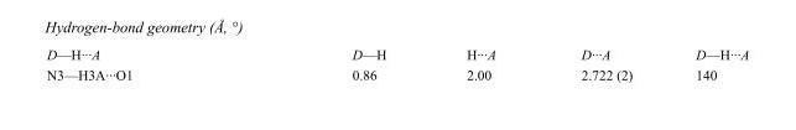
<table><tbody><tr><td>D—H···A</td><td>D—H</td><td>H···A</td><td>D···A</td><td>D—H···A</td></tr><tr><td>N3—H3A···O1</td><td>0.86</td><td>2.00</td><td>2.722 (2)</td><td>140</td></tr></tbody></table>